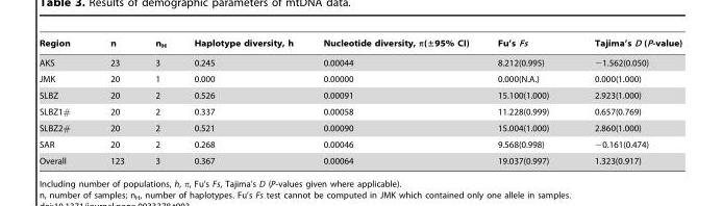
<table><thead><tr><td>Region</td><td>n</td><td>n<sub>H</sub></td><td>Haplotype diversity, h</td><td>Nucleotide diversity, π(±95% CI)</td><td>Fu’s Fs</td><td>Tajima’s D (P-value)</td></tr></thead><tbody><tr><td>AKS</td><td>23</td><td>3</td><td>0.245</td><td>0.00044</td><td>8.212(0.995)</td><td>−1.562(0.050)</td></tr><tr><td>JMK</td><td>20</td><td>1</td><td>0.000</td><td>0.00000</td><td>0.000(N.A.)</td><td>0.000(1.000)</td></tr><tr><td>SLBZ</td><td>20</td><td>2</td><td>0.526</td><td>0.00091</td><td>15.100(1.000)</td><td>2.923(1.000)</td></tr><tr><td>SLBZ1#</td><td>20</td><td>2</td><td>0.337</td><td>0.00058</td><td>11.228(0.999)</td><td>0.657(0.769)</td></tr><tr><td>SLBZ2#</td><td>20</td><td>2</td><td>0.521</td><td>0.00090</td><td>15.004(1.000)</td><td>2.860(1.000)</td></tr><tr><td>SAR</td><td>20</td><td>2</td><td>0.268</td><td>0.00046</td><td>9.568(0.998)</td><td>−0.161(0.474)</td></tr><tr><td>Overall</td><td>123</td><td>3</td><td>0.367</td><td>0.00064</td><td>19.037(0.997)</td><td>1.323(0.917)</td></tr></tbody></table>